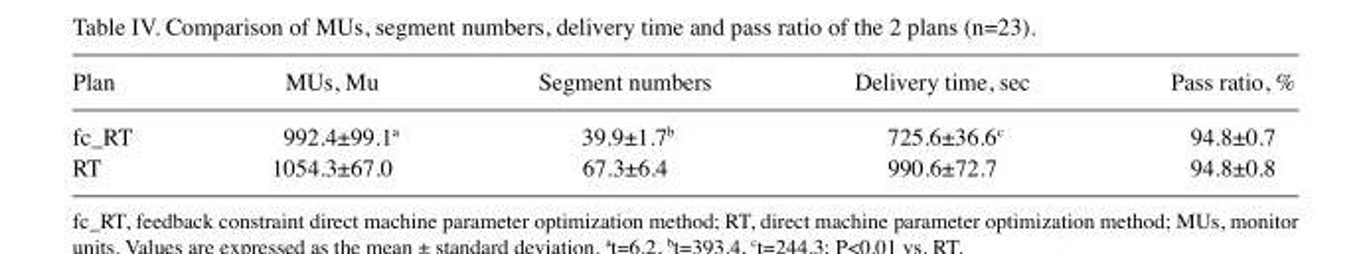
<table><thead><tr><td>Plan</td><td>MUs, Mu</td><td>Segment numbers</td><td>Delivery time, sec</td><td>Pass ratio, %</td></tr></thead><tbody><tr><td>fc_RT</td><td>992.4±99.1<sup>a</sup></td><td>39.9±1.7<sup>b</sup></td><td>725.6±36.6<sup>c</sup></td><td>94.8±0.7</td></tr><tr><td>RT</td><td>1054.3±67.0</td><td>67.3±6.4</td><td>990.6±72.7</td><td>94.8±0.8</td></tr></tbody></table>